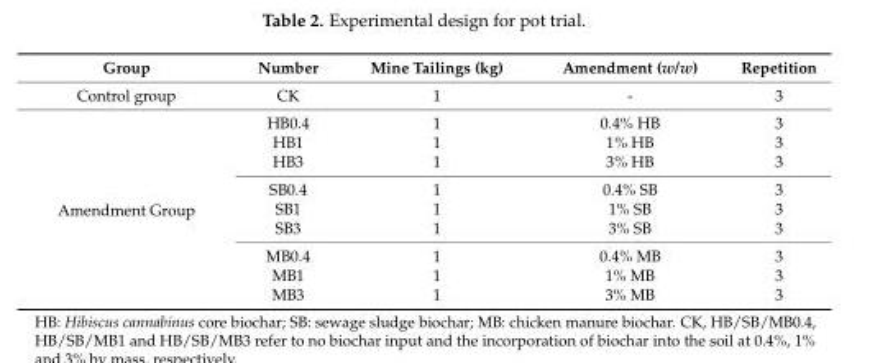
<table><thead><tr><td>Group</td><td>Number</td><td>Mine Tailings (kg)</td><td>Amendment (w/w)</td><td>Repetition</td></tr></thead><tbody><tr><td>Control group</td><td>CK</td><td>1</td><td>-</td><td>3</td></tr><tr><td rowspan="9">Amendment Group</td><td>HB0.4</td><td>1</td><td>0.4% HB</td><td>3</td></tr><tr><td>HB1</td><td>1</td><td>1% HB</td><td>3</td></tr><tr><td>HB3</td><td>1</td><td>3% HB</td><td>3</td></tr><tr><td>SB0.4</td><td>1</td><td>0.4% SB</td><td>3</td></tr><tr><td>SB1</td><td>1</td><td>1% SB</td><td>3</td></tr><tr><td>SB3</td><td>1</td><td>3% SB</td><td>3</td></tr><tr><td>MB0.4</td><td>1</td><td>0.4% MB</td><td>3</td></tr><tr><td>MB1</td><td>1</td><td>1% MB</td><td>3</td></tr><tr><td>MB3</td><td>1</td><td>3% MB</td><td>3</td></tr></tbody></table>